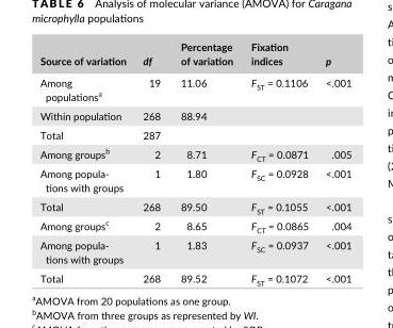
<table><thead><tr><td>Source of variation</td><td>df</td><td>Percentage of variation</td><td>Fixation indices</td><td>p</td></tr></thead><tbody><tr><td>Among populations<sup>a</sup></td><td>19</td><td>11.06</td><td>F<sub>ST</sub> = 0.1106</td><td>&lt;.001</td></tr><tr><td>Within population</td><td>268</td><td>88.94</td><td></td><td></td></tr><tr><td>Total</td><td>287</td><td></td><td></td><td></td></tr><tr><td>Among groups<sup>b</sup></td><td>2</td><td>8.71</td><td>F<sub>CT</sub> = 0.0871</td><td>.005</td></tr><tr><td>Among popula- tions with groups</td><td>1</td><td>1.80</td><td>F<sub>SC</sub> = 0.0928</td><td>&lt;.001</td></tr><tr><td>Total</td><td>268</td><td>89.50</td><td>F<sub>ST</sub> = 0.1055</td><td>&lt;.001</td></tr><tr><td>Among groups<sup>c</sup></td><td>2</td><td>8.65</td><td>F<sub>CT</sub> = 0.0865</td><td>.004</td></tr><tr><td>Among popula- tions with groups</td><td>1</td><td>1.83</td><td>F<sub>SC</sub> = 0.0937</td><td>&lt;.001</td></tr><tr><td>Total</td><td>268</td><td>89.52</td><td>F<sub>ST</sub> = 0.1072</td><td>&lt;.001</td></tr></tbody></table>